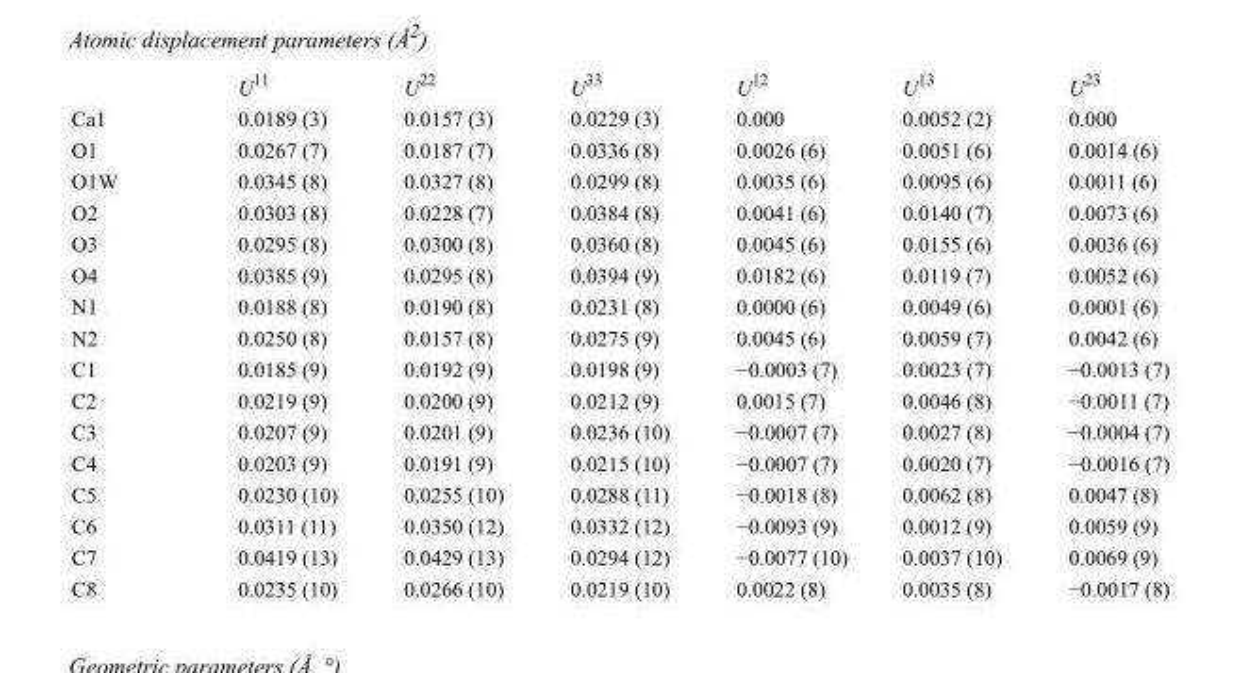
<table><thead><tr><td></td><td>U<sup>11</sup></td><td>U<sup>22</sup></td><td>U<sup>33</sup></td><td>U<sup>12</sup></td><td>U<sup>13</sup></td><td>U<sup>23</sup></td></tr></thead><tbody><tr><td>Ca1</td><td>0.0189 (3)</td><td>0.0157 (3)</td><td>0.0229 (3)</td><td>0.000</td><td>0.0052 (2)</td><td>0.000</td></tr><tr><td>O1</td><td>0.0267 (7)</td><td>0.0187 (7)</td><td>0.0336 (8)</td><td>0.0026 (6)</td><td>0.0051 (6)</td><td>0.0014 (6)</td></tr><tr><td>O1W</td><td>0.0345 (8)</td><td>0.0327 (8)</td><td>0.0299 (8)</td><td>0.0035 (6)</td><td>0.0095 (6)</td><td>0.0011 (6)</td></tr><tr><td>O2</td><td>0.0303 (8)</td><td>0.0228 (7)</td><td>0.0384 (8)</td><td>0.0041 (6)</td><td>0.0140 (7)</td><td>0.0073 (6)</td></tr><tr><td>O3</td><td>0.0295 (8)</td><td>0.0300 (8)</td><td>0.0360 (8)</td><td>0.0045 (6)</td><td>0.0155 (6)</td><td>0.0036 (6)</td></tr><tr><td>O4</td><td>0.0385 (9)</td><td>0.0295 (8)</td><td>0.0394 (9)</td><td>0.0182 (6)</td><td>0.0119 (7)</td><td>0.0052 (6)</td></tr><tr><td>N1</td><td>0.0188 (8)</td><td>0.0190 (8)</td><td>0.0231 (8)</td><td>0.0000 (6)</td><td>0.0049 (6)</td><td>0.0001 (6)</td></tr><tr><td>N2</td><td>0.0250 (8)</td><td>0.0157 (8)</td><td>0.0275 (9)</td><td>0.0045 (6)</td><td>0.0059 (7)</td><td>0.0042 (6)</td></tr><tr><td>C1</td><td>0.0185 (9)</td><td>0.0192 (9)</td><td>0.0198 (9)</td><td>−0.0003 (7)</td><td>0.0023 (7)</td><td>−0.0013 (7)</td></tr><tr><td>C2</td><td>0.0219 (9)</td><td>0.0200 (9)</td><td>0.0212 (9)</td><td>0.0015 (7)</td><td>0.0046 (8)</td><td>−0.0011 (7)</td></tr><tr><td>C3</td><td>0.0207 (9)</td><td>0.0201 (9)</td><td>0.0236 (10)</td><td>−0.0007 (7)</td><td>0.0027 (8)</td><td>−0.0004 (7)</td></tr><tr><td>C4</td><td>0.0203 (9)</td><td>0.0191 (9)</td><td>0.0215 (10)</td><td>−0.0007 (7)</td><td>0.0020 (7)</td><td>−0.0016 (7)</td></tr><tr><td>C5</td><td>0.0230 (10)</td><td>0.0255 (10)</td><td>0.0288 (11)</td><td>−0.0018 (8)</td><td>0.0062 (8)</td><td>0.0047 (8)</td></tr><tr><td>C6</td><td>0.0311 (11)</td><td>0.0350 (12)</td><td>0.0332 (12)</td><td>−0.0093 (9)</td><td>0.0012 (9)</td><td>0.0059 (9)</td></tr><tr><td>C7</td><td>0.0419 (13)</td><td>0.0429 (13)</td><td>0.0294 (12)</td><td>−0.0077 (10)</td><td>0.0037 (10)</td><td>0.0069 (9)</td></tr><tr><td>C8</td><td>0.0235 (10)</td><td>0.0266 (10)</td><td>0.0219 (10)</td><td>0.0022 (8)</td><td>0.0035 (8)</td><td>−0.0017 (8)</td></tr></tbody></table>